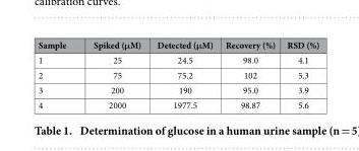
<table><thead><tr><td>Sample</td><td>Spiked (μM)</td><td>Detected (μM)</td><td>Recovery (%)</td><td>RSD (%)</td></tr></thead><tbody><tr><td>1</td><td>25</td><td>24.5</td><td>98.0</td><td>4.1</td></tr><tr><td>2</td><td>75</td><td>75.2</td><td>102</td><td>5.3</td></tr><tr><td>3</td><td>200</td><td>190</td><td>95.0</td><td>3.9</td></tr><tr><td>4</td><td>2000</td><td>1977.5</td><td>98.87</td><td>5.6</td></tr></tbody></table>